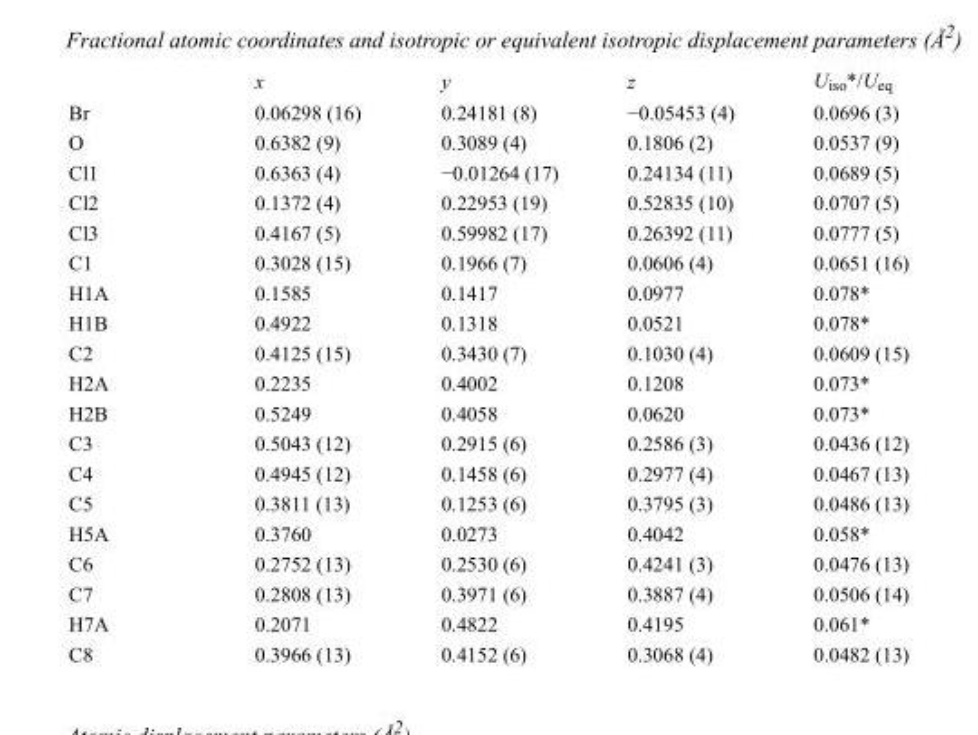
<table><thead><tr><td></td><td>x</td><td>y</td><td>z</td><td>U<sub>iso</sub>*/U<sub>eq</sub></td></tr></thead><tbody><tr><td>Br</td><td>0.06298 (16)</td><td>0.24181 (8)</td><td>−0.05453 (4)</td><td>0.0696 (3)</td></tr><tr><td>O</td><td>0.6382 (9)</td><td>0.3089 (4)</td><td>0.1806 (2)</td><td>0.0537 (9)</td></tr><tr><td>Cl1</td><td>0.6363 (4)</td><td>−0.01264 (17)</td><td>0.24134 (11)</td><td>0.0689 (5)</td></tr><tr><td>Cl2</td><td>0.1372 (4)</td><td>0.22953 (19)</td><td>0.52835 (10)</td><td>0.0707 (5)</td></tr><tr><td>Cl3</td><td>0.4167 (5)</td><td>0.59982 (17)</td><td>0.26392 (11)</td><td>0.0777 (5)</td></tr><tr><td>C1</td><td>0.3028 (15)</td><td>0.1966 (7)</td><td>0.0606 (4)</td><td>0.0651 (16)</td></tr><tr><td>H1A</td><td>0.1585</td><td>0.1417</td><td>0.0977</td><td>0.078*</td></tr><tr><td>H1B</td><td>0.4922</td><td>0.1318</td><td>0.0521</td><td>0.078*</td></tr><tr><td>C2</td><td>0.4125 (15)</td><td>0.3430 (7)</td><td>0.1030 (4)</td><td>0.0609 (15)</td></tr><tr><td>H2A</td><td>0.2235</td><td>0.4002</td><td>0.1208</td><td>0.073*</td></tr><tr><td>H2B</td><td>0.5249</td><td>0.4058</td><td>0.0620</td><td>0.073*</td></tr><tr><td>C3</td><td>0.5043 (12)</td><td>0.2915 (6)</td><td>0.2586 (3)</td><td>0.0436 (12)</td></tr><tr><td>C4</td><td>0.4945 (12)</td><td>0.1458 (6)</td><td>0.2977 (4)</td><td>0.0467 (13)</td></tr><tr><td>C5</td><td>0.3811 (13)</td><td>0.1253 (6)</td><td>0.3795 (3)</td><td>0.0486 (13)</td></tr><tr><td>H5A</td><td>0.3760</td><td>0.0273</td><td>0.4042</td><td>0.058*</td></tr><tr><td>C6</td><td>0.2752 (13)</td><td>0.2530 (6)</td><td>0.4241 (3)</td><td>0.0476 (13)</td></tr><tr><td>C7</td><td>0.2808 (13)</td><td>0.3971 (6)</td><td>0.3887 (4)</td><td>0.0506 (14)</td></tr><tr><td>H7A</td><td>0.2071</td><td>0.4822</td><td>0.4195</td><td>0.061*</td></tr><tr><td>C8</td><td>0.3966 (13)</td><td>0.4152 (6)</td><td>0.3068 (4)</td><td>0.0482 (13)</td></tr></tbody></table>